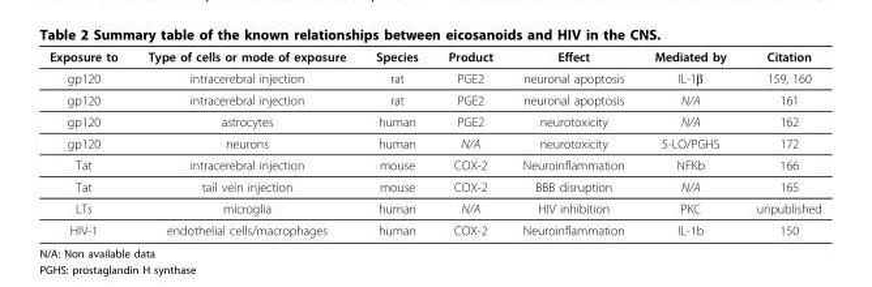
<table><thead><tr><td>Exposure to</td><td>Type of cells or mode of exposure</td><td>Species</td><td>Product</td><td>Effect</td><td>Mediated by</td><td>Citation</td></tr></thead><tbody><tr><td>gp120</td><td>intracerebral injection</td><td>rat</td><td>PGE2</td><td>neuronal apoptosis</td><td>IL-1β</td><td>159, 160</td></tr><tr><td>gp120</td><td>intracerebral injection</td><td>rat</td><td>PGE2</td><td>neuronal apoptosis</td><td>N/A</td><td>161</td></tr><tr><td>gp120</td><td>astrocytes</td><td>human</td><td>PGE2</td><td>neurotoxicity</td><td>N/A</td><td>162</td></tr><tr><td>gp120</td><td>neurons</td><td>human</td><td>N/A</td><td>neurotoxicity</td><td>5-LO/PGHS</td><td>172</td></tr><tr><td>Tat</td><td>intracerebral injection</td><td>mouse</td><td>COX-2</td><td>Neuroinflammation</td><td>NFKb</td><td>166</td></tr><tr><td>Tat</td><td>tail vein injection</td><td>mouse</td><td>COX-2</td><td>BBB disruption</td><td>N/A</td><td>165</td></tr><tr><td>LTs</td><td>microglia</td><td>human</td><td>N/A</td><td>HIV inhibition</td><td>PKC</td><td>unpublished</td></tr><tr><td>HIV-1</td><td>endothelial cells/macrophages</td><td>human</td><td>COX-2</td><td>Neuroinflammation</td><td>IL-1b</td><td>150</td></tr></tbody></table>